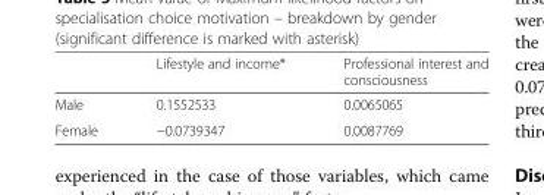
<table><thead><tr><td></td><td>Lifestyle and income*</td><td>Professional interest and consciousness</td></tr></thead><tbody><tr><td>Male</td><td>0.1552533</td><td>0.0065065</td></tr><tr><td>Female</td><td>−0.0739347</td><td>0.0087769</td></tr></tbody></table>